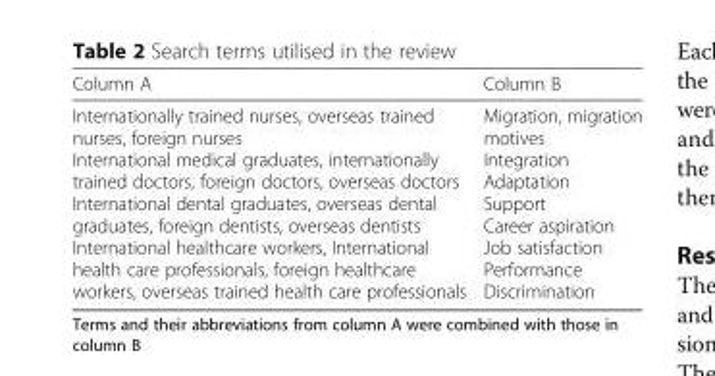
<table><thead><tr><td>Column A</td><td>Column B</td></tr></thead><tbody><tr><td>Internationally trained nurses, overseas trained nurses, foreign nurses International medical graduates, internationally trained doctors, foreign doctors, overseas doctors International dental graduates, overseas dental graduates, foreign dentists, overseas dentists International healthcare workers, International health care professionals, foreign healthcare workers, overseas trained health care professionals</td><td>Migration, migration motives Integration Adaptation Support Career aspiration Job satisfaction Performance Discrimination</td></tr></tbody></table>